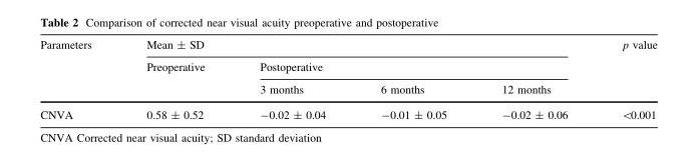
<table><thead><tr><td rowspan="3">Parameters</td><td colspan="4">Mean ± SD</td><td rowspan="3">p value</td></tr><tr><td rowspan="2">Preoperative</td><td colspan="3">Postoperative</td></tr><tr><td>3 months</td><td>6 months</td><td>12 months</td></tr></thead><tbody><tr><td>CNVA</td><td>0.58 ± 0.52</td><td>-0.02 ± 0.04</td><td>-0.01 ± 0.05</td><td>-0.02 ± 0.06</td><td>&lt;0.001</td></tr></tbody></table>